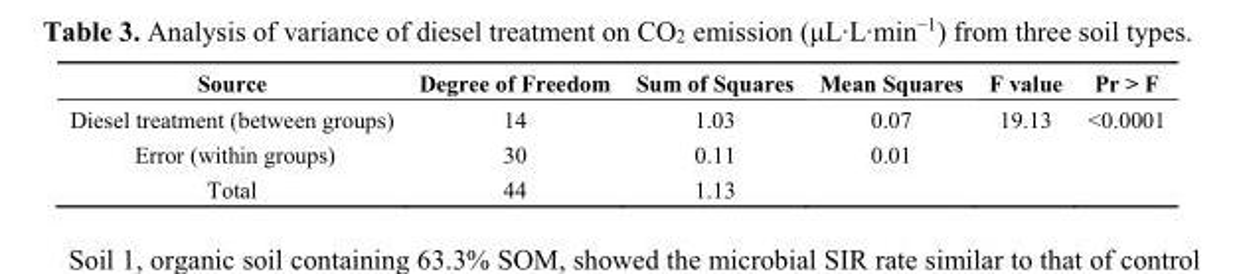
<table><thead><tr><td>Source</td><td>Degree of Freedom</td><td>Sum of Squares</td><td>Mean Squares</td><td>F value</td><td>Pr &gt; F</td></tr></thead><tbody><tr><td>Diesel treatment (between groups)</td><td>14</td><td>1.03</td><td>0.07</td><td>19.13</td><td>&lt;0.0001</td></tr><tr><td>Error (within groups)</td><td>30</td><td>0.11</td><td>0.01</td><td></td><td></td></tr><tr><td>Total</td><td>44</td><td>1.13</td><td></td><td></td><td></td></tr></tbody></table>